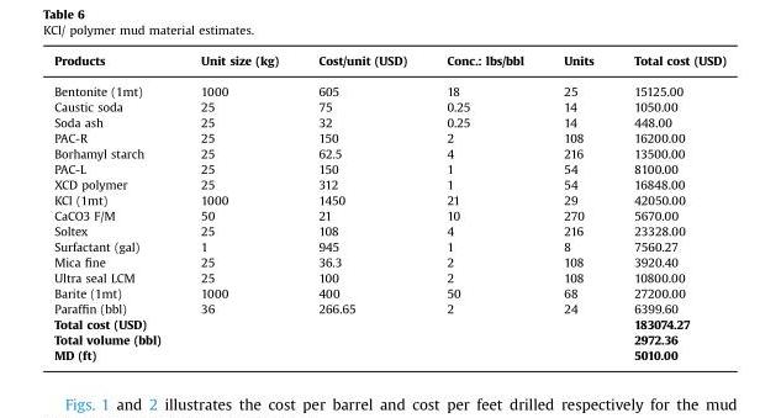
<table><thead><tr><td>Products</td><td>Unit size (kg)</td><td>Cost/unit (USD)</td><td>Conc.: lbs/bbl</td><td>Units</td><td>Total cost (USD)</td></tr></thead><tbody><tr><td>Bentonite (1mt)</td><td>1000</td><td>605</td><td>18</td><td>25</td><td>15125.00</td></tr><tr><td>Caustic soda</td><td>25</td><td>75</td><td>0.25</td><td>14</td><td>1050.00</td></tr><tr><td>Soda ash</td><td>25</td><td>32</td><td>0.25</td><td>14</td><td>448.00</td></tr><tr><td>PAC-R</td><td>25</td><td>150</td><td>2</td><td>108</td><td>16200.00</td></tr><tr><td>Borhamyl starch</td><td>25</td><td>62.5</td><td>4</td><td>216</td><td>13500.00</td></tr><tr><td>PAC-L</td><td>25</td><td>150</td><td>1</td><td>54</td><td>8100.00</td></tr><tr><td>XCD polymer</td><td>25</td><td>312</td><td>1</td><td>54</td><td>16848.00</td></tr><tr><td>KCl (1mt)</td><td>1000</td><td>1450</td><td>21</td><td>29</td><td>42050.00</td></tr><tr><td>CaCO3 F/M</td><td>50</td><td>21</td><td>10</td><td>270</td><td>5670.00</td></tr><tr><td>Soltex</td><td>25</td><td>108</td><td>4</td><td>216</td><td>23328.00</td></tr><tr><td>Surfactant (gal)</td><td>1</td><td>945</td><td>1</td><td>8</td><td>7560.27</td></tr><tr><td>Mica fine</td><td>25</td><td>36.3</td><td>2</td><td>108</td><td>3920.40</td></tr><tr><td>Ultra seal LCM</td><td>25</td><td>100</td><td>2</td><td>108</td><td>10800.00</td></tr><tr><td>Barite (1mt)</td><td>1000</td><td>400</td><td>50</td><td>68</td><td>27200.00</td></tr><tr><td>Paraffin (bbl)</td><td>36</td><td>266.65</td><td>2</td><td>24</td><td>6399.60</td></tr><tr><td>Total cost (USD)</td><td></td><td></td><td></td><td></td><td>183074.27</td></tr><tr><td>Total volume (bbl)</td><td></td><td></td><td></td><td></td><td>2972.36</td></tr><tr><td>MD (ft)</td><td></td><td></td><td></td><td></td><td>5010.00</td></tr></tbody></table>